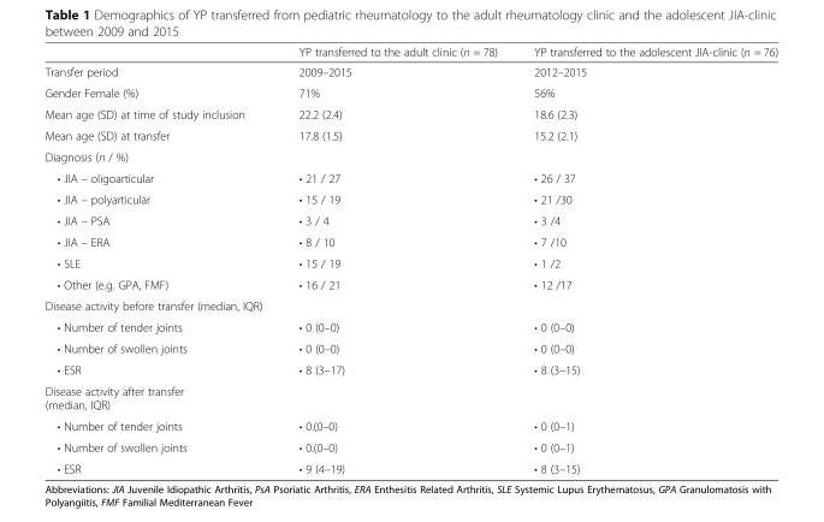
<table><thead><tr><td></td><td>YP transferred to the adult clinic (n = 78)</td><td>YP transferred to the adolescent JIA-clinic (n = 76)</td></tr></thead><tbody><tr><td>Transfer period</td><td>2009–2015</td><td>2012–2015</td></tr><tr><td>Gender Female (%)</td><td>71%</td><td>56%</td></tr><tr><td>Mean age (SD) at time of study inclusion</td><td>22.2 (2.4)</td><td>18.6 (2.3)</td></tr><tr><td>Mean age (SD) at transfer</td><td>17.8 (1.5)</td><td>15.2 (2.1)</td></tr><tr><td colspan="3">Diagnosis (n / %)</td></tr><tr><td>• JIA – oligoarticular</td><td>• 21 / 27</td><td>• 26 / 37</td></tr><tr><td>• JIA – polyarticular</td><td>• 15 / 19</td><td>• 21 /30</td></tr><tr><td>• JIA – PSA</td><td>• 3 / 4</td><td>• 3 /4</td></tr><tr><td>• JIA – ERA</td><td>• 8 / 10</td><td>• 7 /10</td></tr><tr><td>• SLE</td><td>• 15 / 19</td><td>• 1 /2</td></tr><tr><td>• Other (e.g. GPA, FMF)</td><td>• 16 / 21</td><td>• 12 /17</td></tr><tr><td colspan="3">Disease activity before transfer (median, IQR)</td></tr><tr><td>• Number of tender joints</td><td>• 0 (0–0)</td><td>• 0 (0–0)</td></tr><tr><td>• Number of swollen joints</td><td>• 0 (0–0)</td><td>• 0 (0–0)</td></tr><tr><td>• ESR</td><td>• 8 (3–17)</td><td>• 8 (3–15)</td></tr><tr><td colspan="3">Disease activity after transfer (median, IQR)</td></tr><tr><td>• Number of tender joints</td><td>• 0.(0–0)</td><td>• 0 (0–1)</td></tr><tr><td>• Number of swollen joints</td><td>• 0.(0–0)</td><td>• 0 (0–1)</td></tr><tr><td>• ESR</td><td>• 9 (4–19)</td><td>• 8 (3–15)</td></tr></tbody></table>